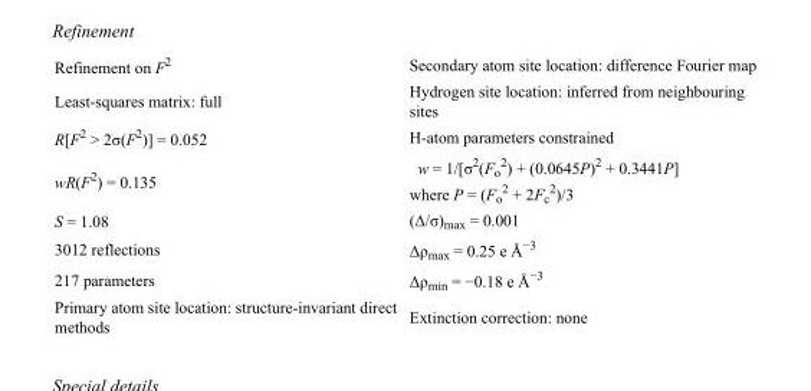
<table><tbody><tr><td>Refinement on F<sup>2</sup></td><td>Secondary atom site location: difference Fourier map</td></tr><tr><td>Least-squares matrix: full</td><td>Hydrogen site location: inferred from neighbouring sites</td></tr><tr><td>R[F<sup>2</sup> &gt; 2σ(F<sup>2</sup>)] = 0.052</td><td>H-atom parameters constrained</td></tr><tr><td>wR(F<sup>2</sup>) = 0.135</td><td>w = 1/[σ<sup>2</sup>(F<sub>o</sub> <sup>2</sup>) + (0.0645P)<sup>2</sup> + 0.3441P] where P = (F<sub>o</sub> <sup>2</sup> + 2F<sub>c</sub> <sup>2</sup>)/3</td></tr><tr><td>S = 1.08</td><td>(Δ/σ)<sub>max</sub> = 0.001</td></tr><tr><td>3012 reflections</td><td>Δρ<sub>max</sub> = 0.25 e Å<sup>−3</sup></td></tr><tr><td>217 parameters</td><td>Δρ<sub>min</sub> = −0.18 e Å<sup>−3</sup></td></tr><tr><td>Primary atom site location: structure-invariant direct methods</td><td>Extinction correction: none</td></tr></tbody></table>